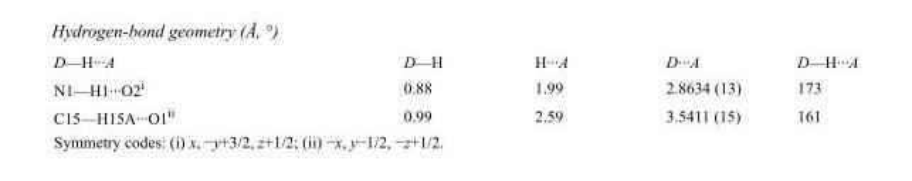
<table><tbody><tr><td>D—H···A</td><td>D—H</td><td>H···A</td><td>D···A</td><td>D—H···A</td></tr><tr><td>N1—H1···O2<sup>i</sup></td><td>0.88</td><td>1.99</td><td>2.8634 (13)</td><td>173</td></tr><tr><td>C15—H15A···O1<sup>ii</sup></td><td>0.99</td><td>2.59</td><td>3.5411 (15)</td><td>161</td></tr></tbody></table>